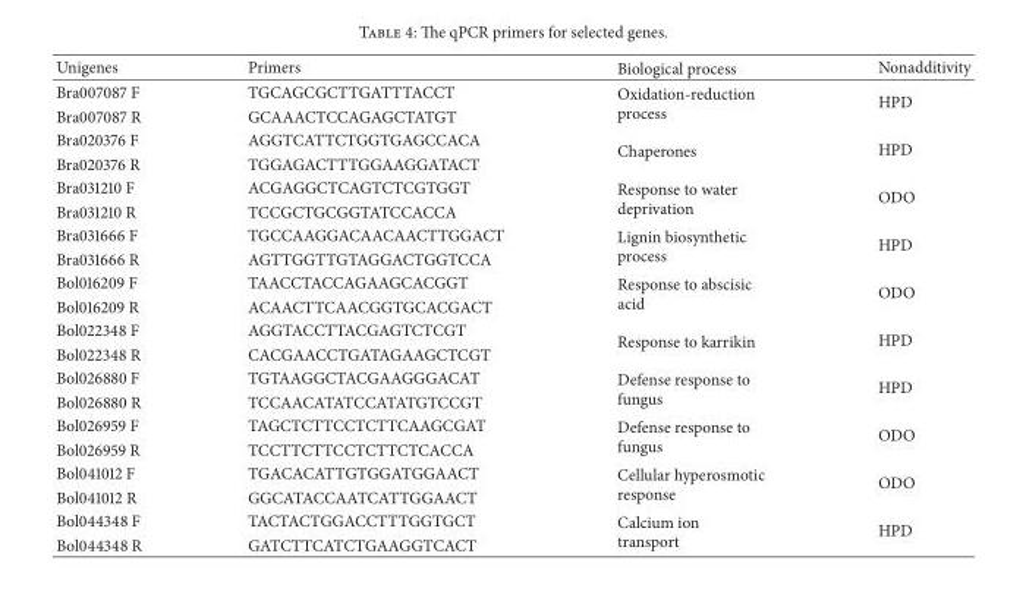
<table><thead><tr><td>Unigenes</td><td>Primers</td><td>Biological process</td><td>Nonadditivity</td></tr></thead><tbody><tr><td>Bra007087 F</td><td>TGCAGCGCTTGATTTACCT</td><td rowspan="2">Oxidation-reduction process</td><td rowspan="2">HPD</td></tr><tr><td>Bra007087 R</td><td>GCAAACTCCAGAGCTATGT</td></tr><tr><td>Bra020376 F</td><td>AGGTCATTCTGGTGAGCCACA</td><td rowspan="2">Chaperones</td><td rowspan="2">HPD</td></tr><tr><td>Bra020376 R</td><td>TGGAGACTTTGGAAGGATACT</td></tr><tr><td>Bra031210 F</td><td>ACGAGGCTCAGTCTCGTGGT</td><td rowspan="2">Response to water deprivation</td><td rowspan="2">ODO</td></tr><tr><td>Bra031210 R</td><td>TCCGCTGCGGTATCCACCA</td></tr><tr><td>Bra031666 F</td><td>TGCCAAGGACAACAACTTGGACT</td><td rowspan="2">Lignin biosynthetic process</td><td rowspan="2">HPD</td></tr><tr><td>Bra031666 R</td><td>AGTTGGTTGTAGGACTGGTCCA</td></tr><tr><td>Bol016209 F</td><td>TAACCTACCAGAAGCACGGT</td><td rowspan="2">Response to abscisic acid</td><td rowspan="2">ODO</td></tr><tr><td>Bol016209 R</td><td>ACAACTTCAACGGTGCACGACT</td></tr><tr><td>Bol022348 F</td><td>AGGTACCTTACGAGTCTCGT</td><td rowspan="2">Response to karrikin</td><td rowspan="2">HPD</td></tr><tr><td>Bol022348 R</td><td>CACGAACCTGATAGAAGCTCGT</td></tr><tr><td>Bol026880 F</td><td>TGTAAGGCTACGAAGGGACAT</td><td rowspan="2">Defense response to fungus</td><td rowspan="2">HPD</td></tr><tr><td>Bol026880 R</td><td>TCCAACATATCCATATGTCCGT</td></tr><tr><td>Bol026959 F</td><td>TAGCTCTTCCTCTTCAAGCGAT</td><td rowspan="2">Defense response to fungus</td><td rowspan="2">ODO</td></tr><tr><td>Bol026959 R</td><td>TCCTTCTTCCTCTTCTCACCA</td></tr><tr><td>Bol041012 F</td><td>TGACACATTGTGGATGGAACT</td><td rowspan="2">Cellular hyperosmotic response</td><td rowspan="2">ODO</td></tr><tr><td>Bol041012 R</td><td>GGCATACCAATCATTGGAACT</td></tr><tr><td>Bol044348 F</td><td>TACTACTGGACCTTTGGTGCT</td><td rowspan="2">Calcium ion transport</td><td rowspan="2">HPD</td></tr><tr><td>Bol044348 R</td><td>GATCTTCATCTGAAGGTCACT</td></tr></tbody></table>